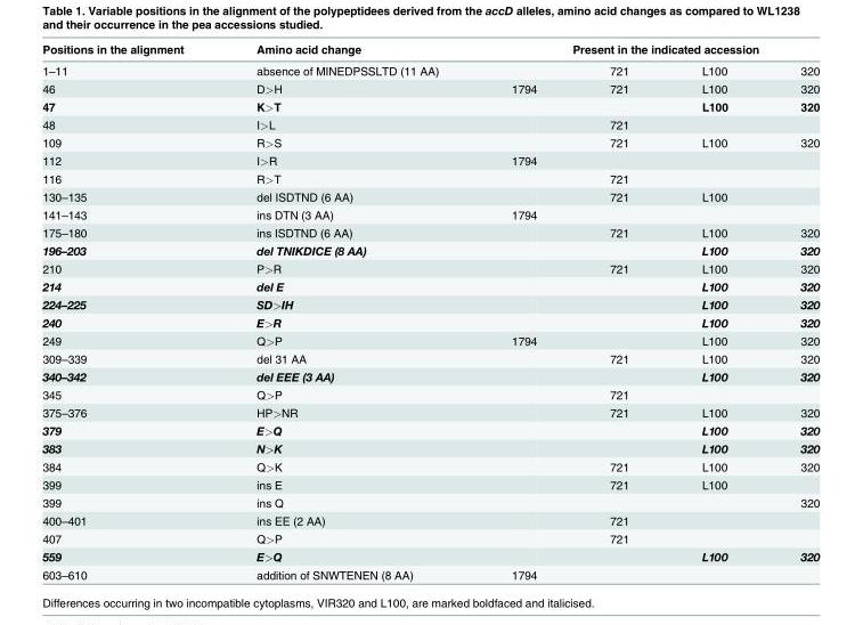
<table><thead><tr><td rowspan="2">Positions in the alignment 1–11</td><td rowspan="2">Amino acid change absence of MINEDPSSLTD (11 AA)</td><td colspan="4">Present in the indicated accession</td></tr><tr><td></td><td>721</td><td>L100</td><td>320</td></tr></thead><tbody><tr><td>46</td><td>D&gt;H</td><td>1794</td><td>721</td><td>L100</td><td>320</td></tr><tr><td>47</td><td>K&gt;T</td><td></td><td></td><td>L100</td><td>320</td></tr><tr><td>48</td><td>I&gt;L</td><td></td><td>721</td><td></td><td></td></tr><tr><td>109</td><td>R&gt;S</td><td></td><td>721</td><td>L100</td><td>320</td></tr><tr><td>112</td><td>I&gt;R</td><td>1794</td><td></td><td></td><td></td></tr><tr><td>116</td><td>R&gt;T</td><td></td><td>721</td><td></td><td></td></tr><tr><td>130–135</td><td>del ISDTND (6 AA)</td><td></td><td>721</td><td>L100</td><td></td></tr><tr><td>141–143</td><td>ins DTN (3 AA)</td><td>1794</td><td></td><td></td><td></td></tr><tr><td>175–180</td><td>ins ISDTND (6 AA)</td><td></td><td>721</td><td>L100</td><td>320</td></tr><tr><td>196–203</td><td>del TNIKDICE (8 AA)</td><td></td><td></td><td>L100</td><td>320</td></tr><tr><td>210</td><td>P&gt;R</td><td></td><td>721</td><td>L100</td><td>320</td></tr><tr><td>214</td><td>del E</td><td></td><td></td><td>L100</td><td>320</td></tr><tr><td>224–225</td><td>SD&gt;IH</td><td></td><td></td><td>L100</td><td>320</td></tr><tr><td>240</td><td>E&gt;R</td><td></td><td></td><td>L100</td><td>320</td></tr><tr><td>249</td><td>Q&gt;P</td><td>1794</td><td></td><td>L100</td><td>320</td></tr><tr><td>309–339</td><td>del 31 AA</td><td></td><td>721</td><td>L100</td><td>320</td></tr><tr><td>340–342</td><td>del EEE (3 AA)</td><td></td><td></td><td>L100</td><td>320</td></tr><tr><td>345</td><td>Q&gt;P</td><td></td><td>721</td><td></td><td></td></tr><tr><td>375–376</td><td>HP&gt;NR</td><td></td><td>721</td><td>L100</td><td>320</td></tr><tr><td>379</td><td>E&gt;Q</td><td></td><td></td><td>L100</td><td>320</td></tr><tr><td>383</td><td>N&gt;K</td><td></td><td></td><td>L100</td><td>320</td></tr><tr><td>384</td><td>Q&gt;K</td><td></td><td>721</td><td>L100</td><td>320</td></tr><tr><td>399</td><td>ins E</td><td></td><td>721</td><td>L100</td><td></td></tr><tr><td>399</td><td>ins Q</td><td></td><td></td><td></td><td>320</td></tr><tr><td>400–401</td><td>ins EE (2 AA)</td><td></td><td>721</td><td></td><td></td></tr><tr><td>407</td><td>Q&gt;P</td><td></td><td>721</td><td></td><td></td></tr><tr><td>559</td><td>E&gt;Q</td><td></td><td></td><td>L100</td><td>320</td></tr><tr><td>603–610</td><td>addition of SNWTENEN (8 AA)</td><td>1794</td><td></td><td></td><td></td></tr></tbody></table>